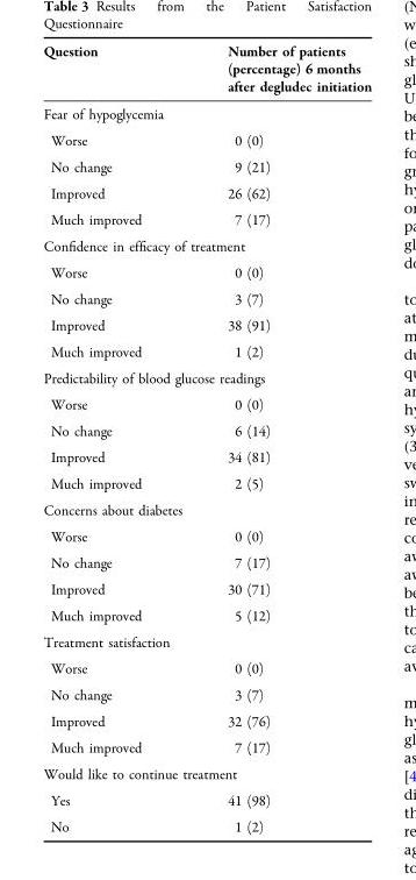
<table><thead><tr><td>Question</td><td>Number of patients (percentage) 6 months after degludec initiation</td></tr></thead><tbody><tr><td colspan="2">Fear of hypoglycemia</td></tr><tr><td>Worse</td><td>0 (0)</td></tr><tr><td>No change</td><td>9 (21)</td></tr><tr><td>Improved</td><td>26 (62)</td></tr><tr><td>Much improved</td><td>7 (17)</td></tr><tr><td colspan="2">Confidence in efficacy of treatment</td></tr><tr><td>Worse</td><td>0 (0)</td></tr><tr><td>No change</td><td>3 (7)</td></tr><tr><td>Improved</td><td>38 (91)</td></tr><tr><td>Much improved</td><td>1 (2)</td></tr><tr><td colspan="2">Predictability of blood glucose readings</td></tr><tr><td>Worse</td><td>0 (0)</td></tr><tr><td>No change</td><td>6 (14)</td></tr><tr><td>Improved</td><td>34 (81)</td></tr><tr><td>Much improved</td><td>2 (5)</td></tr><tr><td colspan="2">Concerns about diabetes</td></tr><tr><td>Worse</td><td>0 (0)</td></tr><tr><td>No change</td><td>7 (17)</td></tr><tr><td>Improved</td><td>30 (71)</td></tr><tr><td>Much improved</td><td>5 (12)</td></tr><tr><td colspan="2">Treatment satisfaction</td></tr><tr><td>Worse</td><td>0 (0)</td></tr><tr><td>No change</td><td>3 (7)</td></tr><tr><td>Improved</td><td>32 (76)</td></tr><tr><td>Much improved</td><td>7 (17)</td></tr><tr><td colspan="2">Would like to continue treatment</td></tr><tr><td>Yes</td><td>41 (98)</td></tr><tr><td>No</td><td>1 (2)</td></tr></tbody></table>